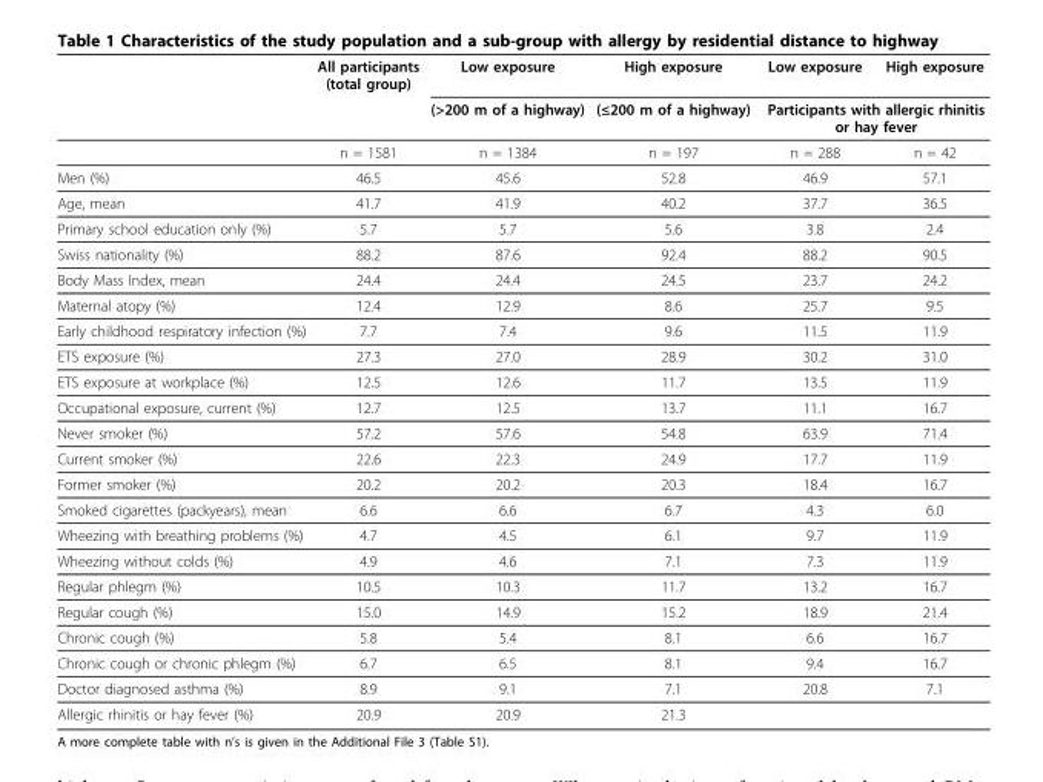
<table><thead><tr><td rowspan="2"></td><td rowspan="2">All participants (total group)</td><td rowspan="2">Low exposure (&gt;200 m of a highway)</td><td rowspan="2">High exposure (≤200 m of a highway)</td><td>Low exposure</td><td>High exposure</td></tr><tr><td colspan="2">Participants with allergic rhinitis or hay fever</td></tr></thead><tbody><tr><td></td><td>n = 1581</td><td>n = 1384</td><td>n = 197</td><td>n = 288</td><td>n = 42</td></tr><tr><td>Men (%)</td><td>46.5</td><td>45.6</td><td>52.8</td><td>46.9</td><td>57.1</td></tr><tr><td>Age, mean</td><td>41.7</td><td>41.9</td><td>40.2</td><td>37.7</td><td>36.5</td></tr><tr><td>Primary school education only (%)</td><td>5.7</td><td>5.7</td><td>5.6</td><td>3.8</td><td>2.4</td></tr><tr><td>Swiss nationality (%)</td><td>88.2</td><td>87.6</td><td>92.4</td><td>88.2</td><td>90.5</td></tr><tr><td>Body Mass Index, mean</td><td>24.4</td><td>24.4</td><td>24.5</td><td>23.7</td><td>24.2</td></tr><tr><td>Maternal atopy (%)</td><td>12.4</td><td>12.9</td><td>8.6</td><td>25.7</td><td>9.5</td></tr><tr><td>Early childhood respiratory infection (%)</td><td>7.7</td><td>7.4</td><td>9.6</td><td>11.5</td><td>11.9</td></tr><tr><td>ETS exposure (%)</td><td>27.3</td><td>27.0</td><td>28.9</td><td>30.2</td><td>31.0</td></tr><tr><td>ETS exposure at workplace (%)</td><td>12.5</td><td>12.6</td><td>11.7</td><td>13.5</td><td>11.9</td></tr><tr><td>Occupational exposure, current (%)</td><td>12.7</td><td>12.5</td><td>13.7</td><td>11.1</td><td>16.7</td></tr><tr><td>Never smoker (%)</td><td>57.2</td><td>57.6</td><td>54.8</td><td>63.9</td><td>71.4</td></tr><tr><td>Current smoker (%)</td><td>22.6</td><td>22.3</td><td>24.9</td><td>17.7</td><td>11.9</td></tr><tr><td>Former smoker (%)</td><td>20.2</td><td>20.2</td><td>20.3</td><td>18.4</td><td>16.7</td></tr><tr><td>Smoked cigarettes (packyears), mean</td><td>6.6</td><td>6.6</td><td>6.7</td><td>4.3</td><td>6.0</td></tr><tr><td>Wheezing with breathing problems (%)</td><td>4.7</td><td>4.5</td><td>6.1</td><td>9.7</td><td>11.9</td></tr><tr><td>Wheezing without colds (%)</td><td>4.9</td><td>4.6</td><td>7.1</td><td>7.3</td><td>11.9</td></tr><tr><td>Regular phlegm (%)</td><td>10.5</td><td>10.3</td><td>11.7</td><td>13.2</td><td>16.7</td></tr><tr><td>Regular cough (%)</td><td>15.0</td><td>14.9</td><td>15.2</td><td>18.9</td><td>21.4</td></tr><tr><td>Chronic cough (%)</td><td>5.8</td><td>5.4</td><td>8.1</td><td>6.6</td><td>16.7</td></tr><tr><td>Chronic cough or chronic phlegm (%)</td><td>6.7</td><td>6.5</td><td>8.1</td><td>9.4</td><td>16.7</td></tr><tr><td>Doctor diagnosed asthma (%)</td><td>8.9</td><td>9.1</td><td>7.1</td><td>20.8</td><td>7.1</td></tr><tr><td>Allergic rhinitis or hay fever (%)</td><td>20.9</td><td>20.9</td><td>21.3</td><td></td><td></td></tr></tbody></table>